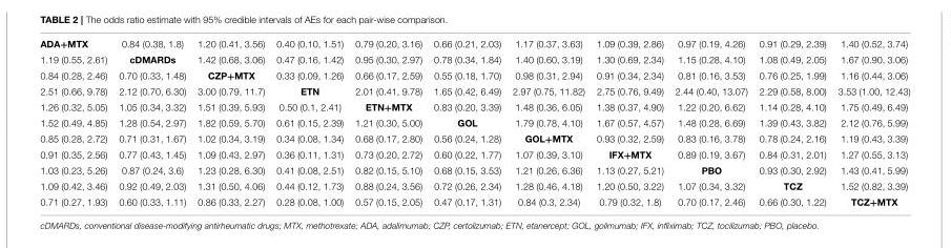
<table><tbody><tr><td>ADA+MTX</td><td>0.84 (0.38, 1.8)</td><td>1.20 (0.41, 3.56)</td><td>0.40 (0.10, 1.51)</td><td>0.79 (0.20, 3.16)</td><td>0.66 (0.21, 2.03)</td><td>1.17 (0.37, 3.63)</td><td>1.09 (0.39, 2.86)</td><td>0.97 (0.19, 4.26)</td><td>0.91 (0.29, 2.39)</td><td>1.40 (0.52, 3.74)</td></tr><tr><td>1.19 (0.55, 2.61)</td><td>cDMARDs</td><td>1.42 (0.68, 3.06)</td><td>0.47 (0.16, 1.42)</td><td>0.95 (0.30, 2.97)</td><td>0.78 (0.34, 1.84)</td><td>1.40 (0.60, 3.19)</td><td>1.30 (0.69, 2.34)</td><td>1.15 (0.28, 4.10)</td><td>1.08 (0.49, 2.05)</td><td>1.67 (0.90, 3.06)</td></tr><tr><td>0.84 (0.28, 2.46)</td><td>0.70 (0.33, 1.48)</td><td>CZP+MTX</td><td>0.33 (0.09, 1.26)</td><td>0.66 (0.17, 2.59)</td><td>0.55 (0.18, 1.70)</td><td>0.98 (0.31, 2.94)</td><td>0.91 (0.34, 2.34)</td><td>0.81 (0.16, 3.53)</td><td>0.76 (0.25, 1.99)</td><td>1.16 (0.44, 3.06)</td></tr><tr><td>2.51 (0.66, 9.78)</td><td>2.12 (0.70, 6.30)</td><td>3.00 (0.79, 11.7)</td><td>ETN</td><td>2.01 (0.41, 9.78)</td><td>1.65 (0.42, 6.49)</td><td>2.97 (0.75, 11.82)</td><td>2.75 (0.76, 9.49)</td><td>2.44 (0.40, 13.07)</td><td>2.29 (0.58, 8.00)</td><td>3.53 (1.00, 12.43)</td></tr><tr><td>1.26 (0.32, 5.05)</td><td>1.05 (0.34, 3.32)</td><td>1.51 (0.39, 5.93)</td><td>0.50 (0.1, 2.41)</td><td>ETN+MTX</td><td>0.83 (0.20, 3.39)</td><td>1.48 (0.36, 6.05)</td><td>1.38 (0.37, 4.90)</td><td>1.22 (0.20, 6.62)</td><td>1.14 (0.28, 4.10)</td><td>1.75 (0.49, 6.49)</td></tr><tr><td>1.52 (0.49, 4.85)</td><td>1.28 (0.54, 2.97)</td><td>1.82 (0.59, 5.70)</td><td>0.61 (0.15, 2.39)</td><td>1.21 (0.30, 5.00)</td><td>GOL</td><td>1.79 (0.78, 4.10)</td><td>1.67 (0.57, 4.57)</td><td>1.48 (0.28, 6.69)</td><td>1.39 (0.43, 3.82)</td><td>2.12 (0.76, 5.99)</td></tr><tr><td>0.85 (0.28, 2.72)</td><td>0.71 (0.31, 1.67)</td><td>1.02 (0.34, 3.19)</td><td>0.34 (0.08, 1.34)</td><td>0.68 (0.17, 2.80)</td><td>0.56 (0.24, 1.28)</td><td>GOL+MTX</td><td>0.93 (0.32, 2.59)</td><td>0.83 (0.16, 3.78)</td><td>0.78 (0.24, 2.16)</td><td>1.19 (0.43, 3.39)</td></tr><tr><td>0.91 (0.35, 2.56)</td><td>0.77 (0.43, 1.45)</td><td>1.09 (0.43, 2.97)</td><td>0.36 (0.11, 1.31)</td><td>0.73 (0.20, 2.72)</td><td>0.60 (0.22, 1.77)</td><td>1.07 (0.39, 3.10)</td><td>IFX+MTX</td><td>0.89 (0.19, 3.67)</td><td>0.84 (0.31, 2.01)</td><td>1.27 (0.55, 3.13)</td></tr><tr><td>1.03 (0.23, 5.26)</td><td>0.87 (0.24, 3.6)</td><td>1.23 (0.28, 6.30)</td><td>0.41 (0.08, 2.51)</td><td>0.82 (0.15, 5.10)</td><td>0.68 (0.15, 3.53)</td><td>1.21 (0.26, 6.36)</td><td>1.13 (0.27, 5.21)</td><td>PBO</td><td>0.93 (0.30, 2.92)</td><td>1.43 (0.41, 5.99)</td></tr><tr><td>1.09 (0.42, 3.46)</td><td>0.92 (0.49, 2.03)</td><td>1.31 (0.50, 4.06)</td><td>0.44 (0.12, 1.73)</td><td>0.88 (0.24, 3.56)</td><td>0.72 (0.26, 2.34)</td><td>1.28 (0.46, 4.18)</td><td>1.20 (0.50, 3.22)</td><td>1.07 (0.34, 3.32)</td><td>TCZ</td><td>1.52 (0.82, 3.39)</td></tr><tr><td>0.71 (0.27, 1.93)</td><td>0.60 (0.33, 1.11)</td><td>0.86 (0.33, 2.27)</td><td>0.28 (0.08, 1.00)</td><td>0.57 (0.15, 2.05)</td><td>0.47 (0.17, 1.31)</td><td>0.84 (0.3, 2.34)</td><td>0.79 (0.32, 1.8)</td><td>0.70 (0.17, 2.46)</td><td>0.66 (0.30, 1.22)</td><td>TCZ+MTX</td></tr></tbody></table>